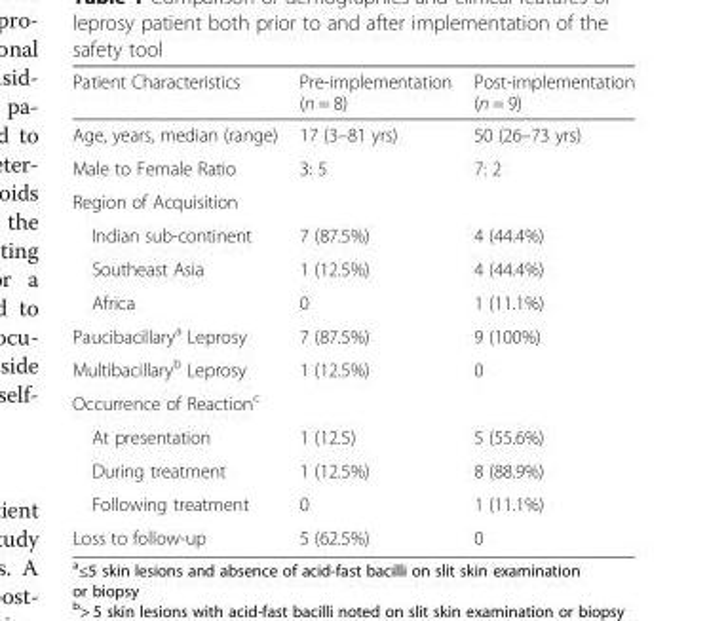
<table><thead><tr><td>Patient Characteristics</td><td>Pre-implementation (n = 8)</td><td>Post-implementation (n = 9)</td></tr></thead><tbody><tr><td>Age, years, median (range)</td><td>17 (3–81 yrs)</td><td>50 (26–73 yrs)</td></tr><tr><td>Male to Female Ratio</td><td>3: 5</td><td>7: 2</td></tr><tr><td colspan="3">Region of Acquisition</td></tr><tr><td>Indian sub-continent</td><td>7 (87.5%)</td><td>4 (44.4%)</td></tr><tr><td>Southeast Asia</td><td>1 (12.5%)</td><td>4 (44.4%)</td></tr><tr><td>Africa</td><td>0</td><td>1 (11.1%)</td></tr><tr><td>Paucibacillary<sup>a</sup> Leprosy</td><td>7 (87.5%)</td><td>9 (100%)</td></tr><tr><td>Multibacillary<sup>b</sup> Leprosy</td><td>1 (12.5%)</td><td>0</td></tr><tr><td colspan="3">Occurrence of Reaction<sup>c</sup></td></tr><tr><td>At presentation</td><td>1 (12.5)</td><td>5 (55.6%)</td></tr><tr><td>During treatment</td><td>1 (12.5%)</td><td>8 (88.9%)</td></tr><tr><td>Following treatment</td><td>0</td><td>1 (11.1%)</td></tr><tr><td>Loss to follow-up</td><td>5 (62.5%)</td><td>0</td></tr></tbody></table>